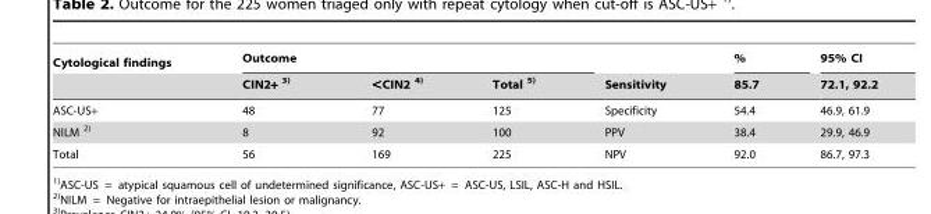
<table><thead><tr><td rowspan="2">Cytological findings</td><td colspan="3">Outcome</td><td rowspan="2">Sensitivity</td><td rowspan="2">% 85.7</td><td rowspan="2">95% CI 72.1, 92.2</td></tr><tr><td>CIN2+ 3)</td><td>&lt;CIN2 4)</td><td>Total 5)</td></tr></thead><tbody><tr><td>ASC-US+</td><td>48</td><td>77</td><td>125</td><td>Specificity</td><td>54.4</td><td>46.9, 61.9</td></tr><tr><td>NILM 2)</td><td>8</td><td>92</td><td>100</td><td>PPV</td><td>38.4</td><td>29.9, 46.9</td></tr><tr><td>Total</td><td>56</td><td>169</td><td>225</td><td>NPV</td><td>92.0</td><td>86.7, 97.3</td></tr></tbody></table>